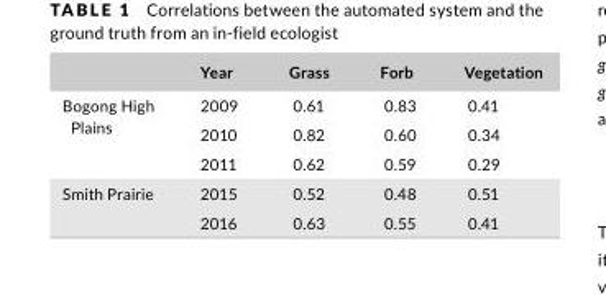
<table><thead><tr><td></td><td>Year</td><td>Grass</td><td>Forb</td><td>Vegetation</td></tr></thead><tbody><tr><td rowspan="3">Bogong High Plains</td><td>2009</td><td>0.61</td><td>0.83</td><td>0.41</td></tr><tr><td>2010</td><td>0.82</td><td>0.60</td><td>0.34</td></tr><tr><td>2011</td><td>0.62</td><td>0.59</td><td>0.29</td></tr><tr><td rowspan="2">Smith Prairie</td><td>2015</td><td>0.52</td><td>0.48</td><td>0.51</td></tr><tr><td>2016</td><td>0.63</td><td>0.55</td><td>0.41</td></tr></tbody></table>